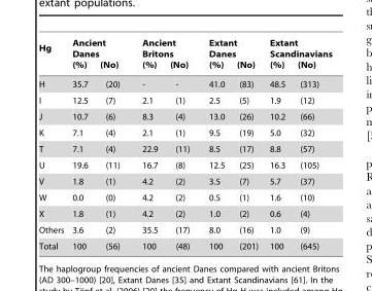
<table><thead><tr><td rowspan="2">Hg H</td><td colspan="2">Ancient Danes (%) (No)</td><td colspan="2">Ancient Britons (%) (No)</td><td colspan="2">Extant Danes (%) (No)</td><td colspan="2">Extant Scandinavians (%) (No)</td></tr><tr><td>35.7</td><td>(20)</td><td>-</td><td>-</td><td>41.0</td><td>(83)</td><td>48.5</td><td>(313)</td></tr></thead><tbody><tr><td>I</td><td>12.5</td><td>(7)</td><td>2.1</td><td>(1)</td><td>2.5</td><td>(5)</td><td>1.9</td><td>(12)</td></tr><tr><td>J</td><td>10.7</td><td>(6)</td><td>8.3</td><td>(4)</td><td>13.0</td><td>(26)</td><td>10.2</td><td>(66)</td></tr><tr><td>K</td><td>7.1</td><td>(4)</td><td>2.1</td><td>(1)</td><td>9.5</td><td>(19)</td><td>5.0</td><td>(32)</td></tr><tr><td>T</td><td>7.1</td><td>(4)</td><td>22.9</td><td>(11)</td><td>8.5</td><td>(17)</td><td>8.8</td><td>(57)</td></tr><tr><td>U</td><td>19.6</td><td>(11)</td><td>16.7</td><td>(8)</td><td>12.5</td><td>(25)</td><td>16.3</td><td>(105)</td></tr><tr><td>V</td><td>1.8</td><td>(1)</td><td>4.2</td><td>(2)</td><td>3.5</td><td>(7)</td><td>5.7</td><td>(37)</td></tr><tr><td>W</td><td>0.0</td><td>(0)</td><td>4.2</td><td>(2)</td><td>0.5</td><td>(1)</td><td>1.6</td><td>(10)</td></tr><tr><td>X</td><td>1.8</td><td>(1)</td><td>4.2</td><td>(2)</td><td>1.0</td><td>(2)</td><td>0.6</td><td>(4)</td></tr><tr><td>Others</td><td>3.6</td><td>(2)</td><td>35.5</td><td>(17)</td><td>8.0</td><td>(16)</td><td>1.0</td><td>(9)</td></tr><tr><td>Total</td><td>100</td><td>(56)</td><td>100</td><td>(48)</td><td>100</td><td>(201)</td><td>100</td><td>(645)</td></tr></tbody></table>